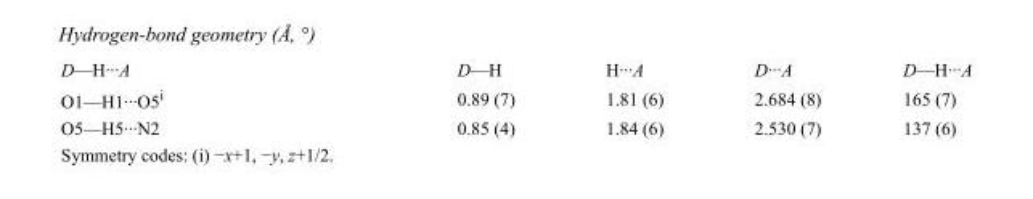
<table><tbody><tr><td>D—H···A</td><td>D—H</td><td>H···A</td><td>D···A</td><td>D—H···A</td></tr><tr><td>O1—H1···O5<sup>i</sup></td><td>0.89 (7)</td><td>1.81 (6)</td><td>2.684 (8)</td><td>165 (7)</td></tr><tr><td>O5—H5···N2</td><td>0.85 (4)</td><td>1.84 (6)</td><td>2.530 (7)</td><td>137 (6)</td></tr></tbody></table>